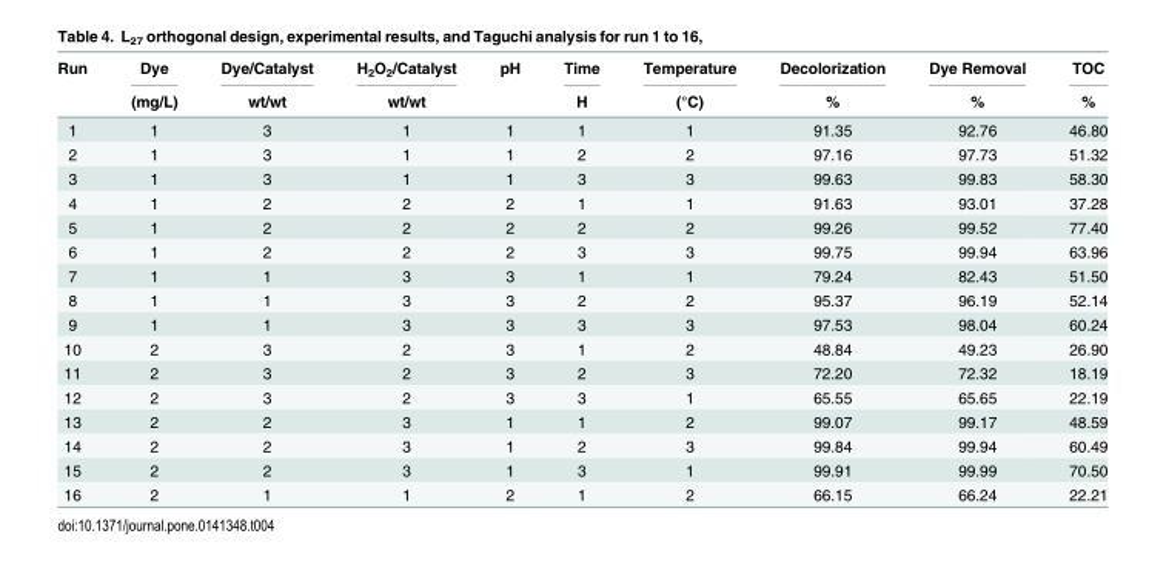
<table><thead><tr><td rowspan="2">Run</td><td rowspan="2">Dye (mg/L)</td><td rowspan="2">Dye/Catalyst wt/wt</td><td rowspan="2">H<sub>2</sub>O<sub>2</sub>/Catalyst wt/wt</td><td rowspan="2">pH</td><td rowspan="2">Time H</td><td rowspan="2">Temperature (°C)</td><td rowspan="2">Decolorization %</td><td rowspan="2">Dye Removal %</td><td rowspan="2">TOC %</td></tr><tr></tr></thead><tbody><tr><td>1</td><td>1</td><td>3</td><td>1</td><td>1</td><td>1</td><td>1</td><td>91.35</td><td>92.76</td><td>46.80</td></tr><tr><td>2</td><td>1</td><td>3</td><td>1</td><td>1</td><td>2</td><td>2</td><td>97.16</td><td>97.73</td><td>51.32</td></tr><tr><td>3</td><td>1</td><td>3</td><td>1</td><td>1</td><td>3</td><td>3</td><td>99.63</td><td>99.83</td><td>58.30</td></tr><tr><td>4</td><td>1</td><td>2</td><td>2</td><td>2</td><td>1</td><td>1</td><td>91.63</td><td>93.01</td><td>37.28</td></tr><tr><td>5</td><td>1</td><td>2</td><td>2</td><td>2</td><td>2</td><td>2</td><td>99.26</td><td>99.52</td><td>77.40</td></tr><tr><td>6</td><td>1</td><td>2</td><td>2</td><td>2</td><td>3</td><td>3</td><td>99.75</td><td>99.94</td><td>63.96</td></tr><tr><td>7</td><td>1</td><td>1</td><td>3</td><td>3</td><td>1</td><td>1</td><td>79.24</td><td>82.43</td><td>51.50</td></tr><tr><td>8</td><td>1</td><td>1</td><td>3</td><td>3</td><td>2</td><td>2</td><td>95.37</td><td>96.19</td><td>52.14</td></tr><tr><td>9</td><td>1</td><td>1</td><td>3</td><td>3</td><td>3</td><td>3</td><td>97.53</td><td>98.04</td><td>60.24</td></tr><tr><td>10</td><td>2</td><td>3</td><td>2</td><td>3</td><td>1</td><td>2</td><td>48.84</td><td>49.23</td><td>26.90</td></tr><tr><td>11</td><td>2</td><td>3</td><td>2</td><td>3</td><td>2</td><td>3</td><td>72.20</td><td>72.32</td><td>18.19</td></tr><tr><td>12</td><td>2</td><td>3</td><td>2</td><td>3</td><td>3</td><td>1</td><td>65.55</td><td>65.65</td><td>22.19</td></tr><tr><td>13</td><td>2</td><td>2</td><td>3</td><td>1</td><td>1</td><td>2</td><td>99.07</td><td>99.17</td><td>48.59</td></tr><tr><td>14</td><td>2</td><td>2</td><td>3</td><td>1</td><td>2</td><td>3</td><td>99.84</td><td>99.94</td><td>60.49</td></tr><tr><td>15</td><td>2</td><td>2</td><td>3</td><td>1</td><td>3</td><td>1</td><td>99.91</td><td>99.99</td><td>70.50</td></tr><tr><td>16</td><td>2</td><td>1</td><td>1</td><td>2</td><td>1</td><td>2</td><td>66.15</td><td>66.24</td><td>22.21</td></tr></tbody></table>